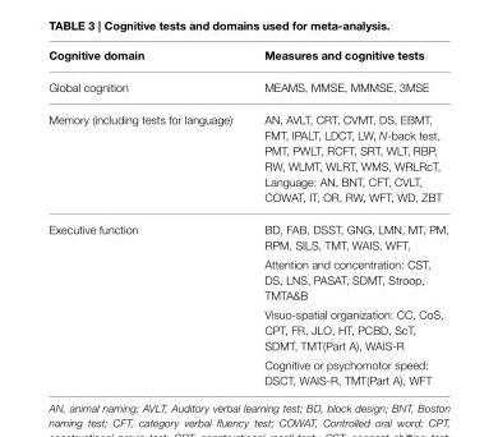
<table><thead><tr><td>Cognitive domain</td><td>Measures and cognitive tests</td></tr></thead><tbody><tr><td>Global cognition</td><td>MEAMS, MMSE, MMMSE, 3MSE</td></tr><tr><td>Memory (including tests for language)</td><td>AN, AVLT, CRT, CVMT, DS, EBMT, FMT, IPALT, LDCT, LW, N-back test, PMT, PWLT, RCFT, SRT, WLT, RBP, RW, WLMT, WLRT, WMS, WRLRcT, Language: AN, BNT, CFT, CVLT, COWAT, IT, OR, RW, WFT, WD, ZBT</td></tr><tr><td>Executive function</td><td>BD, FAB, DSST, GNG, LMN, MT, PM, RPM, SILS, TMT, WAIS, WFT, Attention and concentration: CST, DS, LNS, PASAT, SDMT, Stroop, TMTA&amp;B Visuo-spatial organization: CC, CoS, CPT, FR, JLO, HT, PCBD, ScT, SDMT, TMT(Part A), WAIS-R Cognitive or psychomotor speed: DSCT, WAIS-R, TMT(Part A), WFT</td></tr></tbody></table>